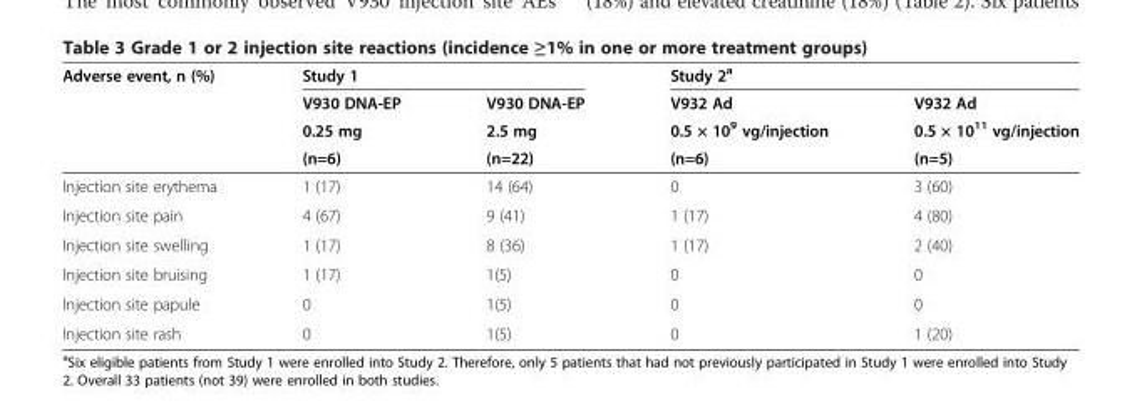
<table><thead><tr><td rowspan="4">Adverse event, n (%)</td><td colspan="2">Study 1</td><td colspan="2">Study 2<sup>a</sup></td></tr><tr><td rowspan="3">V930 DNA-EP 0.25 mg (n=6)</td><td rowspan="3">V930 DNA-EP 2.5 mg (n=22)</td><td rowspan="3">V932 Ad 0.5 × 10<sup>9</sup> vg/injection (n=6)</td><td rowspan="3">V932 Ad 0.5 × 10<sup>11</sup> vg/injection (n=5)</td></tr><tr></tr><tr></tr></thead><tbody><tr><td>Injection site erythema</td><td>1 (17)</td><td>14 (64)</td><td>0</td><td>3 (60)</td></tr><tr><td>Injection site pain</td><td>4 (67)</td><td>9 (41)</td><td>1 (17)</td><td>4 (80)</td></tr><tr><td>Injection site swelling</td><td>1 (17)</td><td>8 (36)</td><td>1 (17)</td><td>2 (40)</td></tr><tr><td>Injection site bruising</td><td>1 (17)</td><td>1(5)</td><td>0</td><td>0</td></tr><tr><td>Injection site papule</td><td>0</td><td>1(5)</td><td>0</td><td>0</td></tr><tr><td>Injection site rash</td><td>0</td><td>1(5)</td><td>0</td><td>1 (20)</td></tr></tbody></table>